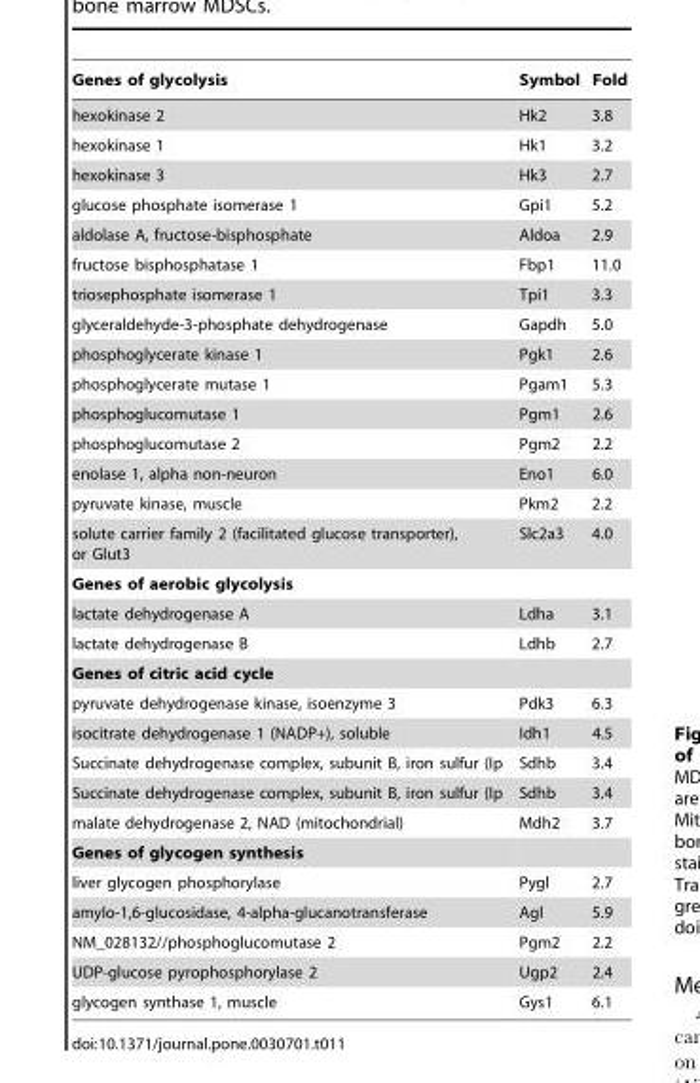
<table><thead><tr><td>Genes of glycolysis</td><td>Symbol</td><td>Fold</td></tr></thead><tbody><tr><td>hexokinase 2</td><td>Hk2</td><td>3.8</td></tr><tr><td>hexokinase 1</td><td>Hk1</td><td>3.2</td></tr><tr><td>hexokinase 3</td><td>Hk3</td><td>2.7</td></tr><tr><td>glucose phosphate isomerase 1</td><td>Gpi1</td><td>5.2</td></tr><tr><td>aldolase A, fructose-bisphosphate</td><td>Aldoa</td><td>2.9</td></tr><tr><td>fructose bisphosphatase 1</td><td>Fbp1</td><td>11.0</td></tr><tr><td>triosephosphate isomerase 1</td><td>Tpi1</td><td>3.3</td></tr><tr><td>glyceraldehyde-3-phosphate dehydrogenase</td><td>Gapdh</td><td>5.0</td></tr><tr><td>phosphoglycerate kinase 1</td><td>Pgk1</td><td>2.6</td></tr><tr><td>phosphoglycerate mutase 1</td><td>Pgam1</td><td>5.3</td></tr><tr><td>phosphoglucomutase 1</td><td>Pgm1</td><td>2.6</td></tr><tr><td>phosphoglucomutase 2</td><td>Pgm2</td><td>2.2</td></tr><tr><td>enolase 1, alpha non-neuron</td><td>Eno1</td><td>6.0</td></tr><tr><td>pyruvate kinase, muscle</td><td>Pkm2</td><td>2.2</td></tr><tr><td>solute carrier family 2 (facilitated glucose transporter), or Glut3</td><td>Slc2a3</td><td>4.0</td></tr><tr><td colspan="3">Genes of aerobic glycolysis</td></tr><tr><td>lactate dehydrogenase A</td><td>Ldha</td><td>3.1</td></tr><tr><td>lactate dehydrogenase B</td><td>Ldhb</td><td>2.7</td></tr><tr><td colspan="3">Genes of citric acid cycle</td></tr><tr><td>pyruvate dehydrogenase kinase, isoenzyme 3</td><td>Pdk3</td><td>6.3</td></tr><tr><td>isocitrate dehydrogenase 1 (NADP+), soluble</td><td>Idh1</td><td>4.5</td></tr><tr><td>Succinate dehydrogenase complex, subunit B, iron sulfur (Ip</td><td>Sdhb</td><td>3.4</td></tr><tr><td>Succinate dehydrogenase complex, subunit B, iron sulfur (Ip</td><td>Sdhb</td><td>3.4</td></tr><tr><td>malate dehydrogenase 2, NAD (mitochondrial)</td><td>Mdh2</td><td>3.7</td></tr><tr><td colspan="3">Genes of glycogen synthesis</td></tr><tr><td>liver glycogen phosphorylase</td><td>Pygl</td><td>2.7</td></tr><tr><td>amylo-1,6-glucosidase, 4-alpha-glucanotransferase</td><td>Agl</td><td>5.9</td></tr><tr><td>NM_028132//phosphoglucomutase 2</td><td>Pgm2</td><td>2.2</td></tr><tr><td>UDP-glucose pyrophosphorylase 2</td><td>Ugp2</td><td>2.4</td></tr><tr><td>glycogen synthase 1, muscle</td><td>Gys1</td><td>6.1</td></tr></tbody></table>